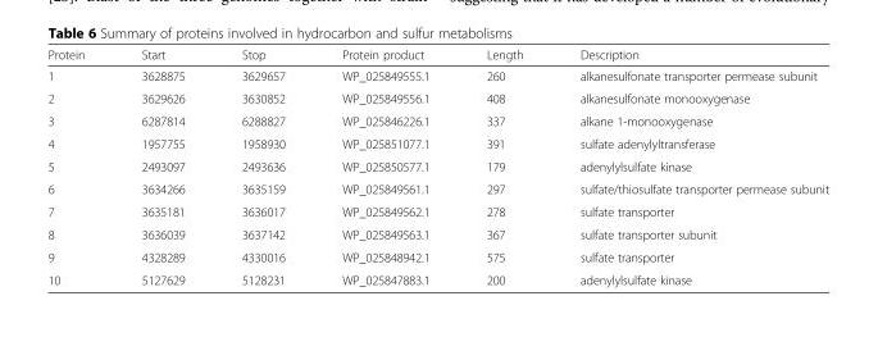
<table><thead><tr><td>Protein</td><td>Start</td><td>Stop</td><td>Protein product</td><td>Length</td><td>Description</td></tr></thead><tbody><tr><td>1</td><td>3628875</td><td>3629657</td><td>WP_025849555.1</td><td>260</td><td>alkanesulfonate transporter permease subunit</td></tr><tr><td>2</td><td>3629626</td><td>3630852</td><td>WP_025849556.1</td><td>408</td><td>alkanesulfonate monooxygenase</td></tr><tr><td>3</td><td>6287814</td><td>6288827</td><td>WP_025846226.1</td><td>337</td><td>alkane 1-monooxygenase</td></tr><tr><td>4</td><td>1957755</td><td>1958930</td><td>WP_025851077.1</td><td>391</td><td>sulfate adenylyltransferase</td></tr><tr><td>5</td><td>2493097</td><td>2493636</td><td>WP_025850577.1</td><td>179</td><td>adenylylsulfate kinase</td></tr><tr><td>6</td><td>3634266</td><td>3635159</td><td>WP_025849561.1</td><td>297</td><td>sulfate/thiosulfate transporter permease subunit</td></tr><tr><td>7</td><td>3635181</td><td>3636017</td><td>WP_025849562.1</td><td>278</td><td>sulfate transporter</td></tr><tr><td>8</td><td>3636039</td><td>3637142</td><td>WP_025849563.1</td><td>367</td><td>sulfate transporter subunit</td></tr><tr><td>9</td><td>4328289</td><td>4330016</td><td>WP_025848942.1</td><td>575</td><td>sulfate transporter</td></tr><tr><td>10</td><td>5127629</td><td>5128231</td><td>WP_025847883.1</td><td>200</td><td>adenylylsulfate kinase</td></tr></tbody></table>